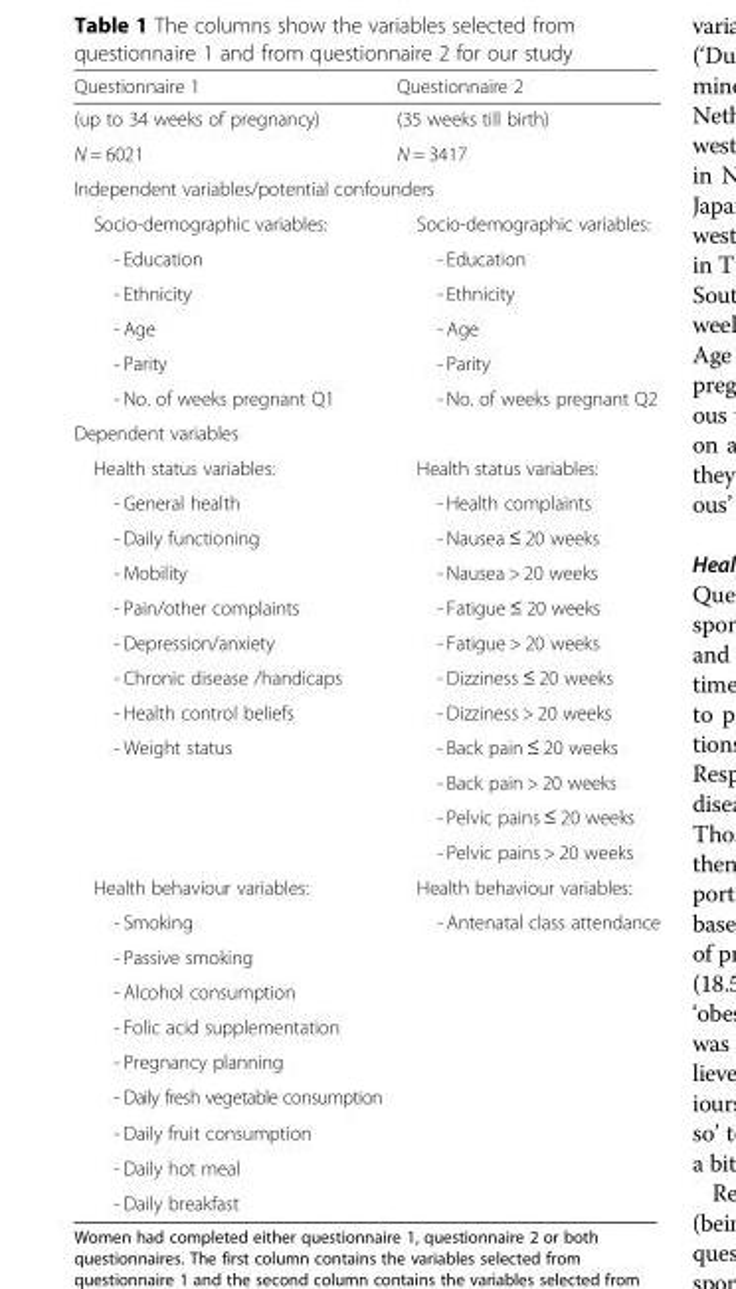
<table><thead><tr><td>Questionnaire 1</td><td>Questionnaire 2</td></tr></thead><tbody><tr><td>(up to 34 weeks of pregnancy)</td><td>(35 weeks till birth)</td></tr><tr><td>N = 6021</td><td>N = 3417</td></tr><tr><td colspan="2">Independent variables/potential confounders</td></tr><tr><td>Socio-demographic variables:</td><td>Socio-demographic variables:</td></tr><tr><td>- Education</td><td>- Education</td></tr><tr><td>- Ethnicity</td><td>- Ethnicity</td></tr><tr><td>- Age</td><td>- Age</td></tr><tr><td>- Parity</td><td>- Parity</td></tr><tr><td>- No. of weeks pregnant Q1</td><td>- No. of weeks pregnant Q2</td></tr><tr><td colspan="2">Dependent variables</td></tr><tr><td>Health status variables:</td><td>Health status variables:</td></tr><tr><td>- General health</td><td>- Health complaints</td></tr><tr><td>- Daily functioning</td><td>- Nausea ≤ 20 weeks</td></tr><tr><td>- Mobility</td><td>- Nausea &gt; 20 weeks</td></tr><tr><td>- Pain/other complaints</td><td>- Fatigue ≤ 20 weeks</td></tr><tr><td>- Depression/anxiety</td><td>- Fatigue &gt; 20 weeks</td></tr><tr><td>- Chronic disease /handicaps</td><td>- Dizziness ≤ 20 weeks</td></tr><tr><td>- Health control beliefs</td><td>- Dizziness &gt; 20 weeks</td></tr><tr><td rowspan="4">- Weight status</td><td>- Back pain ≤ 20 weeks</td></tr><tr><td>- Back pain &gt; 20 weeks</td></tr><tr><td>- Pelvic pains ≤ 20 weeks</td></tr><tr><td>- Pelvic pains &gt; 20 weeks</td></tr><tr><td>Health behaviour variables:</td><td>Health behaviour variables:</td></tr><tr><td>- Smoking</td><td rowspan="9">- Antenatal class attendance</td></tr><tr><td>- Passive smoking</td></tr><tr><td>- Alcohol consumption</td></tr><tr><td>- Folic acid supplementation</td></tr><tr><td>- Pregnancy planning</td></tr><tr><td>- Daily fresh vegetable consumption</td></tr><tr><td>- Daily fruit consumption</td></tr><tr><td>- Daily hot meal</td></tr><tr><td>- Daily breakfast</td></tr></tbody></table>